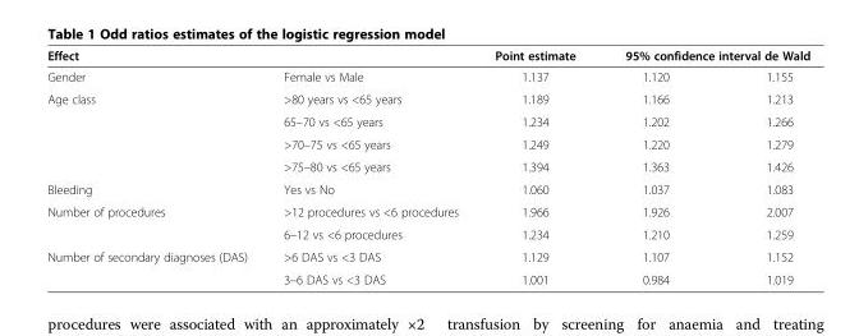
<table><thead><tr><td rowspan="2">Effect Gender</td><td rowspan="2">Female vs Male</td><td rowspan="2">Point estimate 1.137</td><td colspan="2">95% confidence interval de Wald</td></tr><tr><td>1.120</td><td>1.155</td></tr></thead><tbody><tr><td rowspan="4">Age class</td><td>&gt;80 years vs &lt;65 years</td><td>1.189</td><td>1.166</td><td>1.213</td></tr><tr><td>65–70 vs &lt;65 years</td><td>1.234</td><td>1.202</td><td>1.266</td></tr><tr><td>&gt;70–75 vs &lt;65 years</td><td>1.249</td><td>1.220</td><td>1.279</td></tr><tr><td>&gt;75–80 vs &lt;65 years</td><td>1.394</td><td>1.363</td><td>1.426</td></tr><tr><td>Bleeding</td><td>Yes vs No</td><td>1.060</td><td>1.037</td><td>1.083</td></tr><tr><td rowspan="2">Number of procedures</td><td>&gt;12 procedures vs &lt;6 procedures</td><td>1.966</td><td>1.926</td><td>2.007</td></tr><tr><td>6–12 vs &lt;6 procedures</td><td>1.234</td><td>1.210</td><td>1.259</td></tr><tr><td rowspan="2">Number of secondary diagnoses (DAS)</td><td>&gt;6 DAS vs &lt;3 DAS</td><td>1.129</td><td>1.107</td><td>1.152</td></tr><tr><td>3–6 DAS vs &lt;3 DAS</td><td>1.001</td><td>0.984</td><td>1.019</td></tr></tbody></table>